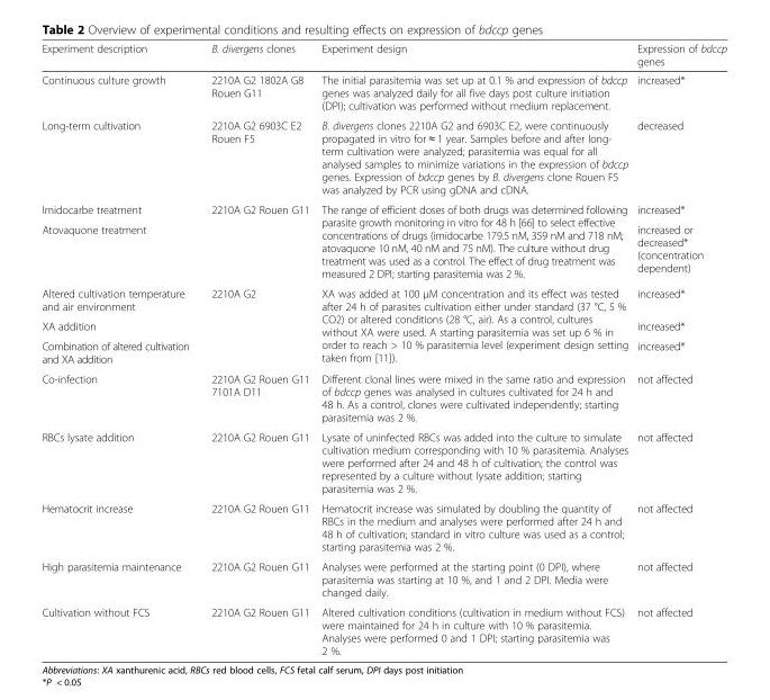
<table><thead><tr><td>Experiment description</td><td>B. divergens clones</td><td>Experiment design</td><td>Expression of bdccp genes</td></tr></thead><tbody><tr><td>Continuous culture growth</td><td>2210A G2 1802A G8 Rouen G11</td><td>The initial parasitemia was set up at 0.1 % and expression of bdccp genes was analyzed daily for all five days post culture initiation (DPI); cultivation was performed without medium replacement.</td><td>increased*</td></tr><tr><td>Long-term cultivation</td><td>2210A G2 6903C E2 Rouen F5</td><td>B. divergens clones 2210A G2 and 6903C E2, were continuously propagated in vitro for ≈ 1 year. Samples before and after long- term cultivation were analyzed; parasitemia was equal for all analysed samples to minimize variations in the expression of bdccp genes. Expression of bdccp genes by B. divergens clone Rouen F5 was analyzed by PCR using gDNA and cDNA.</td><td>decreased</td></tr><tr><td>Imidocarbe treatment</td><td rowspan="2">2210A G2 Rouen G11</td><td rowspan="2">The range of efficient doses of both drugs was determined following parasite growth monitoring in vitro for 48 h [66] to select effective concentrations of drugs (imidocarbe 179.5 nM, 359 nM and 718 nM; atovaquone 10 nM, 40 nM and 75 nM). The culture without drug treatment was used as a control. The effect of drug treatment was measured 2 DPI; starting parasitemia was 2 %.</td><td>increased*</td></tr><tr><td>Atovaquone treatment</td><td>increased or decreased* (concentration dependent)</td></tr><tr><td>Altered cultivation temperature and air environment</td><td rowspan="3">2210A G2</td><td rowspan="3">XA was added at 100 μM concentration and its effect was tested after 24 h of parasites cultivation either under standard (37 °C, 5 % CO2) or altered conditions (28 °C, air). As a control, cultures without XA were used. A starting parasitemia was set up 6 % in order to reach &gt; 10 % parasitemia level (experiment design setting taken from [11]).</td><td>increased*</td></tr><tr><td>XA addition</td><td>increased*</td></tr><tr><td>Combination of altered cultivation and XA addition</td><td>increased*</td></tr><tr><td>Co-infection</td><td>2210A G2 Rouen G11 7101A D11</td><td>Different clonal lines were mixed in the same ratio and expression of bdccp genes was analysed in cultures cultivated for 24 h and 48 h. As a control, clones were cultivated independently; starting parasitemia was 2 %.</td><td>not affected</td></tr><tr><td>RBCs lysate addition</td><td>2210A G2 Rouen G11</td><td>Lysate of uninfected RBCs was added into the culture to simulate cultivation medium corresponding with 10 % parasitemia. Analyses were performed after 24 and 48 h of cultivation; the control was represented by a culture without lysate addition; starting parasitemia was 2 %.</td><td>not affected</td></tr><tr><td>Hematocrit increase</td><td>2210A G2 Rouen G11</td><td>Hematocrit increase was simulated by doubling the quantity of RBCs in the medium and analyses were performed after 24 h and 48 h of cultivation; standard in vitro culture was used as a control; starting parasitemia was 2 %.</td><td>not affected</td></tr><tr><td>High parasitemia maintenance</td><td>2210A G2 Rouen G11</td><td>Analyses were performed at the starting point (0 DPI), where parasitemia was starting at 10 %, and 1 and 2 DPI. Media were changed daily.</td><td>not affected</td></tr><tr><td>Cultivation without FCS</td><td>2210A G2 Rouen G11</td><td>Altered cultivation conditions (cultivation in medium without FCS) were maintained for 24 h in culture with 10 % parasitemia. Analyses were performed 0 and 1 DPI; starting parasitemia was 2 %.</td><td>not affected</td></tr></tbody></table>